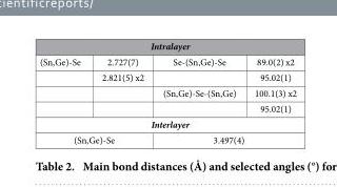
<table><thead><tr><td colspan="4">Intralayer</td></tr><tr><td>(Sn,Ge)-Se</td><td>2.727(7)</td><td>Se-(Sn,Ge)-Se</td><td>89.0(2) x2</td></tr></thead><tbody><tr><td></td><td>2.821(5) x2</td><td></td><td>95.02(1)</td></tr><tr><td></td><td></td><td>(Sn,Ge)-Se-(Sn,Ge)</td><td>100.1(3) x2</td></tr><tr><td></td><td></td><td></td><td>95.02(1)</td></tr><tr><td colspan="4">Interlayer</td></tr><tr><td colspan="2">(Sn,Ge)-Se</td><td colspan="2">3.497(4)</td></tr></tbody></table>